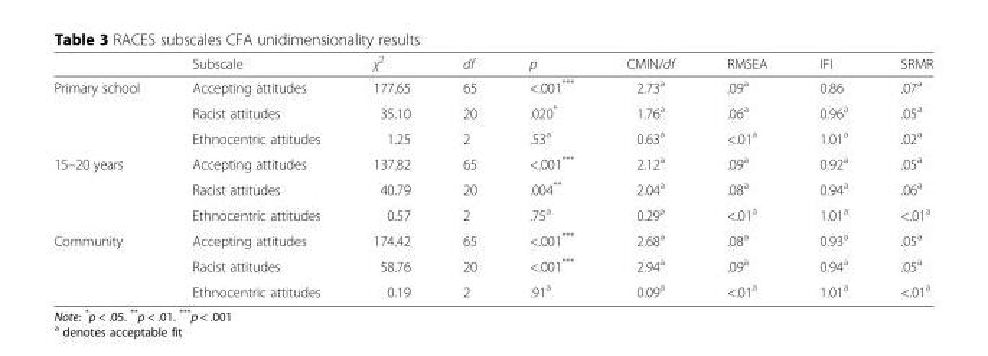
<table><thead><tr><td></td><td>Subscale</td><td>χ<sup>2</sup></td><td>df</td><td>p</td><td>CMIN/df</td><td>RMSEA</td><td>IFI</td><td>SRMR</td></tr></thead><tbody><tr><td rowspan="3">Primary school</td><td>Accepting attitudes</td><td>177.65</td><td>65</td><td>&lt;.001***</td><td>2.73<sup>a</sup></td><td>.09<sup>a</sup></td><td>0.86</td><td>.07<sup>a</sup></td></tr><tr><td>Racist attitudes</td><td>35.10</td><td>20</td><td>.020*</td><td>1.76<sup>a</sup></td><td>.06<sup>a</sup></td><td>0.96<sup>a</sup></td><td>.05<sup>a</sup></td></tr><tr><td>Ethnocentric attitudes</td><td>1.25</td><td>2</td><td>.53<sup>a</sup></td><td>0.63<sup>a</sup></td><td>&lt;.01<sup>a</sup></td><td>1.01<sup>a</sup></td><td>.02<sup>a</sup></td></tr><tr><td rowspan="3">15–20 years</td><td>Accepting attitudes</td><td>137.82</td><td>65</td><td>&lt;.001***</td><td>2.12<sup>a</sup></td><td>.09<sup>a</sup></td><td>0.92<sup>a</sup></td><td>.05<sup>a</sup></td></tr><tr><td>Racist attitudes</td><td>40.79</td><td>20</td><td>.004**</td><td>2.04<sup>a</sup></td><td>.08<sup>a</sup></td><td>0.94<sup>a</sup></td><td>.06<sup>a</sup></td></tr><tr><td>Ethnocentric attitudes</td><td>0.57</td><td>2</td><td>.75<sup>a</sup></td><td>0.29<sup>a</sup></td><td>&lt;.01<sup>a</sup></td><td>1.01<sup>a</sup></td><td>&lt;.01<sup>a</sup></td></tr><tr><td rowspan="3">Community</td><td>Accepting attitudes</td><td>174.42</td><td>65</td><td>&lt;.001***</td><td>2.68<sup>a</sup></td><td>.08<sup>a</sup></td><td>0.93<sup>a</sup></td><td>.05<sup>a</sup></td></tr><tr><td>Racist attitudes</td><td>58.76</td><td>20</td><td>&lt;.001***</td><td>2.94<sup>a</sup></td><td>.09<sup>a</sup></td><td>0.94<sup>a</sup></td><td>.05<sup>a</sup></td></tr><tr><td>Ethnocentric attitudes</td><td>0.19</td><td>2</td><td>.91<sup>a</sup></td><td>0.09<sup>a</sup></td><td>&lt;.01<sup>a</sup></td><td>1.01<sup>a</sup></td><td>&lt;.01<sup>a</sup></td></tr></tbody></table>